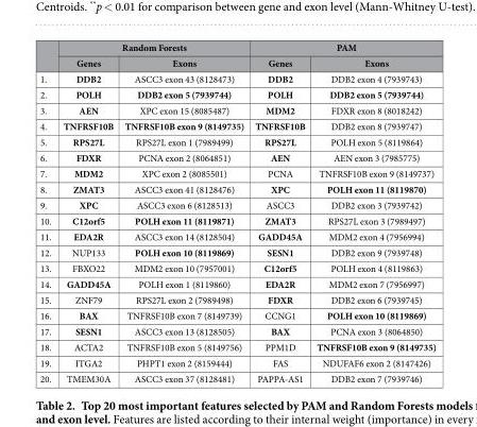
<table><thead><tr><td rowspan="2"></td><td colspan="2">Random Forests</td><td colspan="2">PAM</td></tr><tr><td>Genes</td><td>Exons</td><td>Genes</td><td>Exons</td></tr></thead><tbody><tr><td>1.</td><td>DDB2</td><td>ASCC3 exon 43 (8128473)</td><td>DDB2</td><td>DDB2 exon 4 (7939743)</td></tr><tr><td>2.</td><td>POLH</td><td>DDB2 exon 5 (7939744)</td><td>POLH</td><td>DDB2 exon 5 (7939744)</td></tr><tr><td>3.</td><td>AEN</td><td>XPC exon 15 (8085487)</td><td>MDM2</td><td>FDXR exon 8 (8018242)</td></tr><tr><td>4.</td><td>TNFRSF10B</td><td>TNFRSF10B exon 9 (8149735)</td><td>TNFRSF10B</td><td>DDB2 exon 8 (7939747)</td></tr><tr><td>5.</td><td>RPS27L</td><td>RPS27L exon 1 (7989499)</td><td>RPS27L</td><td>POLH exon 5 (8119864)</td></tr><tr><td>6.</td><td>FDXR</td><td>PCNA exon 2 (8064851)</td><td>AEN</td><td>AEN exon 3 (7985775)</td></tr><tr><td>7.</td><td>MDM2</td><td>XPC exon 2 (8085501)</td><td>PCNA</td><td>TNFRSF10B exon 9 (8149737)</td></tr><tr><td>8.</td><td>ZMAT3</td><td>ASCC3 exon 41 (8128476)</td><td>XPC</td><td>POLH exon 11 (8119870)</td></tr><tr><td>9.</td><td>XPC</td><td>ASCC3 exon 6 (8128513)</td><td>ASCC3</td><td>DDB2 exon 3 (7939742)</td></tr><tr><td>10.</td><td>C12orf5</td><td>POLH exon 11 (8119871)</td><td>ZMAT3</td><td>RPS27L exon 3 (7989497)</td></tr><tr><td>11.</td><td>EDA2R</td><td>ASCC3 exon 14 (8128504)</td><td>GADD45A</td><td>MDM2 exon 4 (7956994)</td></tr><tr><td>12.</td><td>NUP133</td><td>POLH exon 10 (8119869)</td><td>SESN1</td><td>DDB2 exon 9 (7939748)</td></tr><tr><td>13.</td><td>FBXO22</td><td>MDM2 exon 10 (7957001)</td><td>C12orf5</td><td>POLH exon 4 (8119863)</td></tr><tr><td>14.</td><td>GADD45A</td><td>POLH exon 1 (8119860)</td><td>EDA2R</td><td>MDM2 exon 7 (7956997)</td></tr><tr><td>15.</td><td>ZNF79</td><td>RPS27L exon 2 (7989498)</td><td>FDXR</td><td>DDB2 exon 6 (7939745)</td></tr><tr><td>16.</td><td>BAX</td><td>TNFRSF10B exon 7 (8149739)</td><td>CCNG1</td><td>POLH exon 10 (8119869)</td></tr><tr><td>17.</td><td>SESN1</td><td>ASCC3 exon 13 (8128505)</td><td>BAX</td><td>PCNA exon 3 (8064850)</td></tr><tr><td>18.</td><td>ACTA2</td><td>TNFRSF10B exon 5 (8149756)</td><td>PPM1D</td><td>TNFRSF10B exon 9 (8149735)</td></tr><tr><td>19.</td><td>ITGA2</td><td>PHPT1 exon 2 (8159444)</td><td>FAS</td><td>NDUFAF6 exon 2 (8147426)</td></tr><tr><td>20.</td><td>TMEM30A</td><td>ASCC3 exon 37 (8128481)</td><td>PAPPA-AS1</td><td>DDB2 exon 7 (7939746)</td></tr></tbody></table>